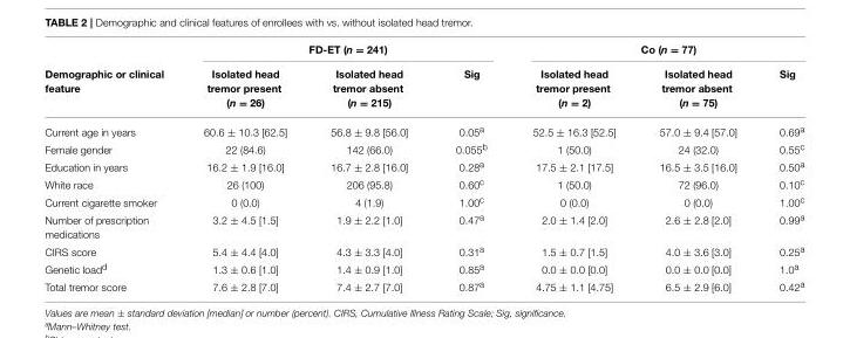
<table><thead><tr><td rowspan="2">Demographic or clinical feature</td><td colspan="3">FD-ET (n = 241)</td><td colspan="3">Co (n = 77)</td></tr><tr><td>Isolated head tremor present (n = 26)</td><td>Isolated head tremor absent (n = 215)</td><td>Sig</td><td>Isolated head tremor present (n = 2)</td><td>Isolated head tremor absent (n = 75)</td><td>Sig</td></tr></thead><tbody><tr><td>Current age in years</td><td>60.6 ± 10.3 [62.5]</td><td>56.8 ± 9.8 [56.0]</td><td>0.05<sup>a</sup></td><td>52.5 ± 16.3 [52.5]</td><td>57.0 ± 9.4 [57.0]</td><td>0.69<sup>a</sup></td></tr><tr><td>Female gender</td><td>22 (84.6)</td><td>142 (66.0)</td><td>0.055<sup>b</sup></td><td>1 (50.0)</td><td>24 (32.0)</td><td>0.55<sup>c</sup></td></tr><tr><td>Education in years</td><td>16.2 ± 1.9 [16.0]</td><td>16.7 ± 2.8 [16.0]</td><td>0.28<sup>a</sup></td><td>17.5 ± 2.1 [17.5]</td><td>16.5 ± 3.5 [16.0]</td><td>0.50<sup>a</sup></td></tr><tr><td>White race</td><td>26 (100)</td><td>206 (95.8)</td><td>0.60<sup>c</sup></td><td>1 (50.0)</td><td>72 (96.0)</td><td>0.10<sup>c</sup></td></tr><tr><td>Current cigarette smoker</td><td>0 (0.0)</td><td>4 (1.9)</td><td>1.00<sup>c</sup></td><td>0 (0.0)</td><td>0 (0.0)</td><td>1.00<sup>c</sup></td></tr><tr><td>Number of prescription medications</td><td>3.2 ± 4.5 [1.5]</td><td>1.9 ± 2.2 [1.0]</td><td>0.47<sup>a</sup></td><td>2.0 ± 1.4 [2.0]</td><td>2.6 ± 2.8 [2.0]</td><td>0.99<sup>a</sup></td></tr><tr><td>CIRS score</td><td>5.4 ± 4.4 [4.0]</td><td>4.3 ± 3.3 [4.0]</td><td>0.31<sup>a</sup></td><td>1.5 ± 0.7 [1.5]</td><td>4.0 ± 3.6 [3.0]</td><td>0.25<sup>a</sup></td></tr><tr><td>Genetic load<sup>d</sup></td><td>1.3 ± 0.6 [1.0]</td><td>1.4 ± 0.9 [1.0]</td><td>0.85<sup>a</sup></td><td>0.0 ± 0.0 [0.0]</td><td>0.0 ± 0.0 [0.0]</td><td>1.0<sup>a</sup></td></tr><tr><td>Total tremor score</td><td>7.6 ± 2.8 [7.0]</td><td>7.4 ± 2.7 [7.0]</td><td>0.87<sup>a</sup></td><td>4.75 ± 1.1 [4.75]</td><td>6.5 ± 2.9 [6.0]</td><td>0.42<sup>a</sup></td></tr></tbody></table>